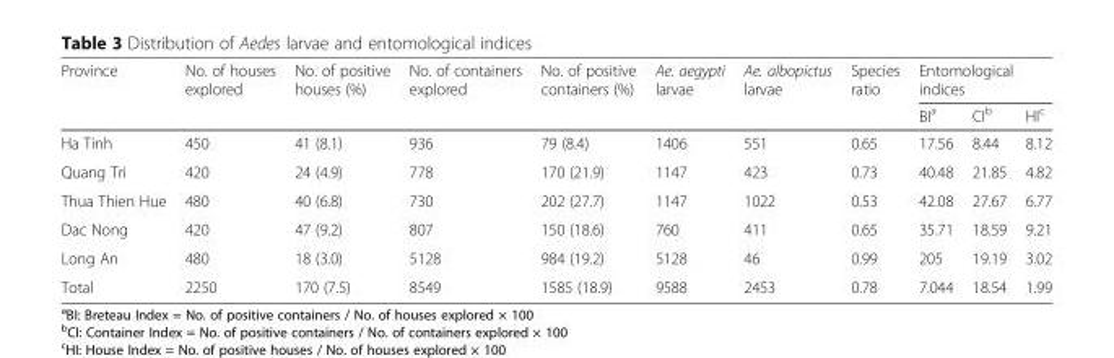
<table><thead><tr><td rowspan="2">Province</td><td rowspan="2">No. of houses explored</td><td rowspan="2">No. of positive houses (%)</td><td rowspan="2">No. of containers explored</td><td rowspan="2">No. of positive containers (%)</td><td rowspan="2">Ae. aegypti larvae</td><td rowspan="2">Ae. albopictus larvae</td><td rowspan="2">Species ratio</td><td colspan="3">Entomological indices</td></tr><tr><td>BI<sup>a</sup></td><td>CI<sup>b</sup></td><td>HI<sup>c</sup></td></tr></thead><tbody><tr><td>Ha Tinh</td><td>450</td><td>41 (8.1)</td><td>936</td><td>79 (8.4)</td><td>1406</td><td>551</td><td>0.65</td><td>17.56</td><td>8.44</td><td>8.12</td></tr><tr><td>Quang Tri</td><td>420</td><td>24 (4.9)</td><td>778</td><td>170 (21.9)</td><td>1147</td><td>423</td><td>0.73</td><td>40.48</td><td>21.85</td><td>4.82</td></tr><tr><td>Thua Thien Hue</td><td>480</td><td>40 (6.8)</td><td>730</td><td>202 (27.7)</td><td>1147</td><td>1022</td><td>0.53</td><td>42.08</td><td>27.67</td><td>6.77</td></tr><tr><td>Dac Nong</td><td>420</td><td>47 (9.2)</td><td>807</td><td>150 (18.6)</td><td>760</td><td>411</td><td>0.65</td><td>35.71</td><td>18.59</td><td>9.21</td></tr><tr><td>Long An</td><td>480</td><td>18 (3.0)</td><td>5128</td><td>984 (19.2)</td><td>5128</td><td>46</td><td>0.99</td><td>205</td><td>19.19</td><td>3.02</td></tr><tr><td>Total</td><td>2250</td><td>170 (7.5)</td><td>8549</td><td>1585 (18.9)</td><td>9588</td><td>2453</td><td>0.78</td><td>7.044</td><td>18.54</td><td>1.99</td></tr></tbody></table>